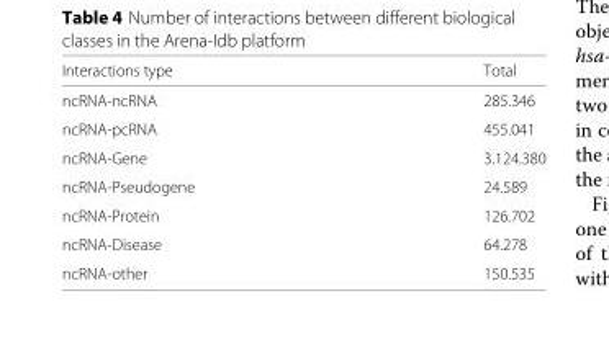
<table><thead><tr><td>Interactions type</td><td>Total</td></tr></thead><tbody><tr><td>ncRNA-ncRNA</td><td>285.346</td></tr><tr><td>ncRNA-pcRNA</td><td>455.041</td></tr><tr><td>ncRNA-Gene</td><td>3.124.380</td></tr><tr><td>ncRNA-Pseudogene</td><td>24.589</td></tr><tr><td>ncRNA-Protein</td><td>126.702</td></tr><tr><td>ncRNA-Disease</td><td>64.278</td></tr><tr><td>ncRNA-other</td><td>150.535</td></tr></tbody></table>